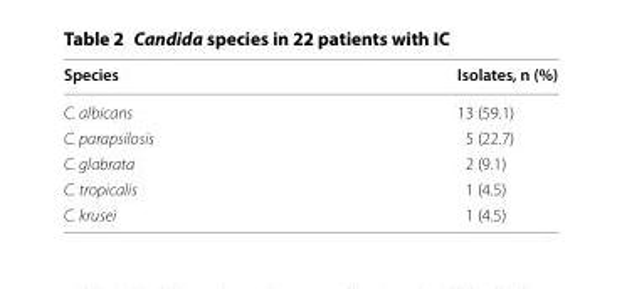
<table><thead><tr><td>Species</td><td>Isolates, n (%)</td></tr></thead><tbody><tr><td>C. albicans</td><td>13 (59.1)</td></tr><tr><td>C. parapsilosis</td><td>5 (22.7)</td></tr><tr><td>C. glabrata</td><td>2 (9.1)</td></tr><tr><td>C. tropicalis</td><td>1 (4.5)</td></tr><tr><td>C. krusei</td><td>1 (4.5)</td></tr></tbody></table>